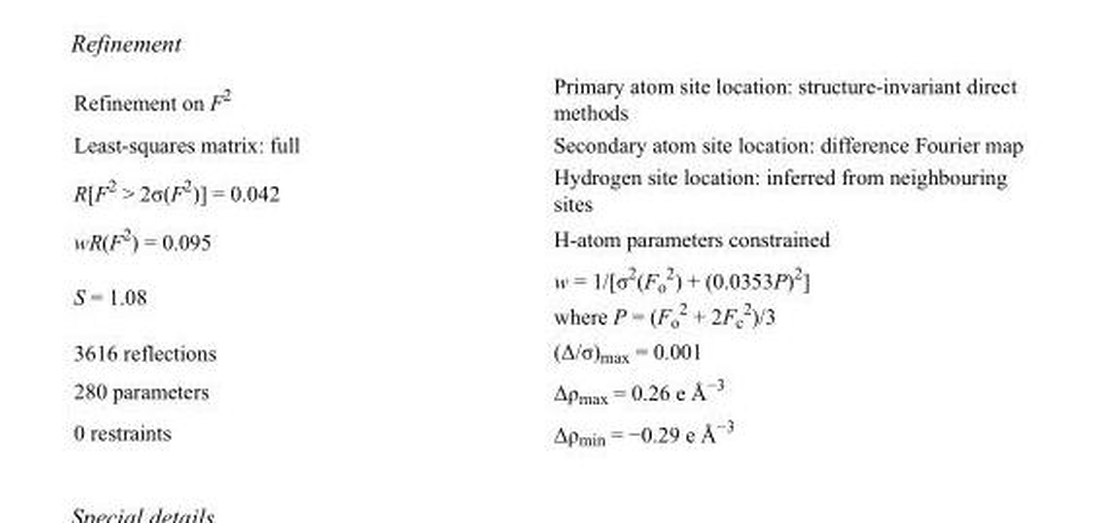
<table><tbody><tr><td>Refinement on F<sup>2</sup></td><td>Primary atom site location: structure-invariant direct methods</td></tr><tr><td>Least-squares matrix: full</td><td>Secondary atom site location: difference Fourier map</td></tr><tr><td>R[F<sup>2</sup> &gt; 2σ(F<sup>2</sup>)] = 0.042</td><td>Hydrogen site location: inferred from neighbouring sites</td></tr><tr><td>wR(F<sup>2</sup>) = 0.095</td><td>H-atom parameters constrained</td></tr><tr><td>S = 1.08</td><td>w = 1/[σ<sup>2</sup>(F<sub>o</sub> <sup>2</sup>) + (0.0353P)<sup>2</sup>] where P = (F<sub>o</sub> <sup>2</sup> + 2F<sub>c</sub> <sup>2</sup>)/3</td></tr><tr><td>3616 reflections</td><td>(Δ/σ)<sub>max</sub> = 0.001</td></tr><tr><td>280 parameters</td><td>Δρ<sub>max</sub> = 0.26 e Å<sup>−3</sup></td></tr><tr><td>0 restraints</td><td>Δρ<sub>min</sub> = −0.29 e Å<sup>−3</sup></td></tr></tbody></table>